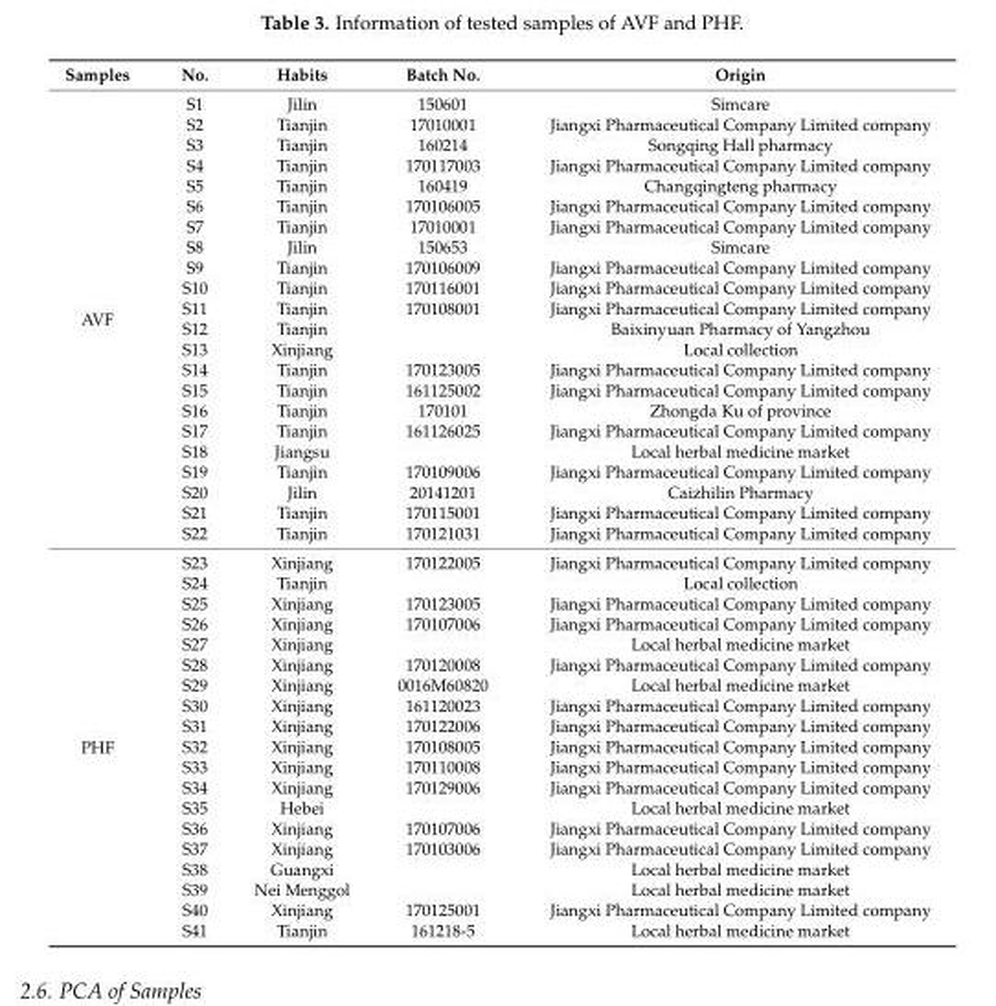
<table><thead><tr><td>Samples</td><td>No.</td><td>Habits</td><td>Batch No.</td><td>Origin</td></tr></thead><tbody><tr><td rowspan="22">AVF</td><td>S1</td><td>Jilin</td><td>150601</td><td>Simcare</td></tr><tr><td>S2</td><td>Tianjin</td><td>17010001</td><td>Jiangxi Pharmaceutical Company Limited company</td></tr><tr><td>S3</td><td>Tianjin</td><td>160214</td><td>Songqing Hall pharmacy</td></tr><tr><td>S4</td><td>Tianjin</td><td>170117003</td><td>Jiangxi Pharmaceutical Company Limited company</td></tr><tr><td>S5</td><td>Tianjin</td><td>160419</td><td>Changqingteng pharmacy</td></tr><tr><td>S6</td><td>Tianjin</td><td>170106005</td><td>Jiangxi Pharmaceutical Company Limited company</td></tr><tr><td>S7</td><td>Tianjin</td><td>17010001</td><td>Jiangxi Pharmaceutical Company Limited company</td></tr><tr><td>S8</td><td>Jilin</td><td>150653</td><td>Simcare</td></tr><tr><td>S9</td><td>Tianjin</td><td>170106009</td><td>Jiangxi Pharmaceutical Company Limited company</td></tr><tr><td>S10</td><td>Tianjin</td><td>170116001</td><td>Jiangxi Pharmaceutical Company Limited company</td></tr><tr><td>S11</td><td>Tianjin</td><td>170108001</td><td>Jiangxi Pharmaceutical Company Limited company</td></tr><tr><td>S12</td><td>Tianjin</td><td></td><td>Baixinyuan Pharmacy of Yangzhou</td></tr><tr><td>S13</td><td>Xinjiang</td><td></td><td>Local collection</td></tr><tr><td>S14</td><td>Tianjin</td><td>170123005</td><td>Jiangxi Pharmaceutical Company Limited company</td></tr><tr><td>S15</td><td>Tianjin</td><td>161125002</td><td>Jiangxi Pharmaceutical Company Limited company</td></tr><tr><td>S16</td><td>Tianjin</td><td>170101</td><td>Zhongda Ku of province</td></tr><tr><td>S17</td><td>Tianjin</td><td>161126025</td><td>Jiangxi Pharmaceutical Company Limited company</td></tr><tr><td>S18</td><td>Jiangsu</td><td></td><td>Local herbal medicine market</td></tr><tr><td>S19</td><td>Tianjin</td><td>170109006</td><td>Jiangxi Pharmaceutical Company Limited company</td></tr><tr><td>S20</td><td>Jilin</td><td>20141201</td><td>Caizhilin Pharmacy</td></tr><tr><td>S21</td><td>Tianjin</td><td>170115001</td><td>Jiangxi Pharmaceutical Company Limited company</td></tr><tr><td>S22</td><td>Tianjin</td><td>170121031</td><td>Jiangxi Pharmaceutical Company Limited company</td></tr><tr><td rowspan="19">PHF</td><td>S23</td><td>Xinjiang</td><td>170122005</td><td>Jiangxi Pharmaceutical Company Limited company</td></tr><tr><td>S24</td><td>Tianjin</td><td></td><td>Local collection</td></tr><tr><td>S25</td><td>Xinjiang</td><td>170123005</td><td>Jiangxi Pharmaceutical Company Limited company</td></tr><tr><td>S26</td><td>Xinjiang</td><td>170107006</td><td>Jiangxi Pharmaceutical Company Limited company</td></tr><tr><td>S27</td><td>Xinjiang</td><td></td><td>Local herbal medicine market</td></tr><tr><td>S28</td><td>Xinjiang</td><td>170120008</td><td>Jiangxi Pharmaceutical Company Limited company</td></tr><tr><td>S29</td><td>Xinjiang</td><td>0016M60820</td><td>Local herbal medicine market</td></tr><tr><td>S30</td><td>Xinjiang</td><td>161120023</td><td>Jiangxi Pharmaceutical Company Limited company</td></tr><tr><td>S31</td><td>Xinjiang</td><td>170122006</td><td>Jiangxi Pharmaceutical Company Limited company</td></tr><tr><td>S32</td><td>Xinjiang</td><td>170108005</td><td>Jiangxi Pharmaceutical Company Limited company</td></tr><tr><td>S33</td><td>Xinjiang</td><td>170110008</td><td>Jiangxi Pharmaceutical Company Limited company</td></tr><tr><td>S34</td><td>Xinjiang</td><td>170129006</td><td>Jiangxi Pharmaceutical Company Limited company</td></tr><tr><td>S35</td><td>Hebei</td><td></td><td>Local herbal medicine market</td></tr><tr><td>S36</td><td>Xinjiang</td><td>170107006</td><td>Jiangxi Pharmaceutical Company Limited company</td></tr><tr><td>S37</td><td>Xinjiang</td><td>170103006</td><td>Jiangxi Pharmaceutical Company Limited company</td></tr><tr><td>S38</td><td>Guangxi</td><td></td><td>Local herbal medicine market</td></tr><tr><td>S39</td><td>Nei Menggol</td><td></td><td>Local herbal medicine market</td></tr><tr><td>S40</td><td>Xinjiang</td><td>170125001</td><td>Jiangxi Pharmaceutical Company Limited company</td></tr><tr><td>S41</td><td>Tianjin</td><td>161218-5</td><td>Local herbal medicine market</td></tr></tbody></table>